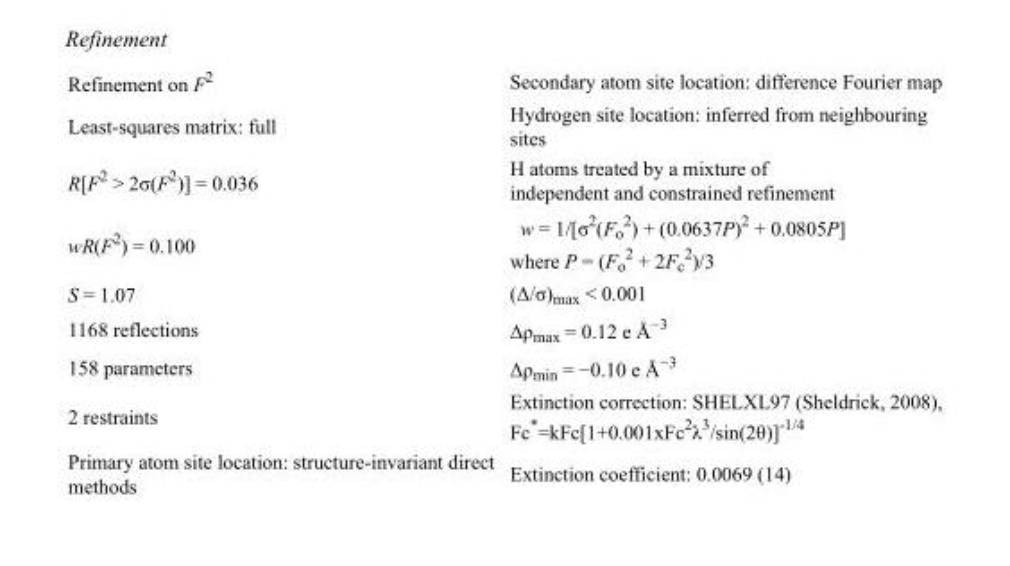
<table><tbody><tr><td>Refinement on F<sup>2</sup></td><td>Secondary atom site location: difference Fourier map</td></tr><tr><td>Least-squares matrix: full</td><td>Hydrogen site location: inferred from neighbouring sites</td></tr><tr><td>R[F<sup>2</sup> &gt; 2σ(F<sup>2</sup>)] = 0.036</td><td>H atoms treated by a mixture of independent and constrained refinement</td></tr><tr><td>wR(F<sup>2</sup>) = 0.100</td><td>w = 1/[σ<sup>2</sup>(F<sub>o</sub> <sup>2</sup>) + (0.0637P)<sup>2</sup> + 0.0805P] where P = (F<sub>o</sub> <sup>2</sup> + 2F<sub>c</sub> <sup>2</sup>)/3</td></tr><tr><td>S = 1.07</td><td>(Δ/σ)<sub>max</sub> &lt; 0.001</td></tr><tr><td>1168 reflections</td><td>Δρ<sub>max</sub> = 0.12 e Å<sup>−3</sup></td></tr><tr><td>158 parameters</td><td>Δρ<sub>min</sub> = −0.10 e Å<sup>−3</sup></td></tr><tr><td>2 restraints</td><td>Extinction correction: SHELXL97 (Sheldrick, 2008), Fc*=kFc[1+0.001xFc<sup>2</sup>λ<sup>3</sup>/sin(2θ)]<sup>-1/4</sup></td></tr><tr><td>Primary atom site location: structure-invariant direct methods</td><td>Extinction coefficient: 0.0069 (14)</td></tr></tbody></table>